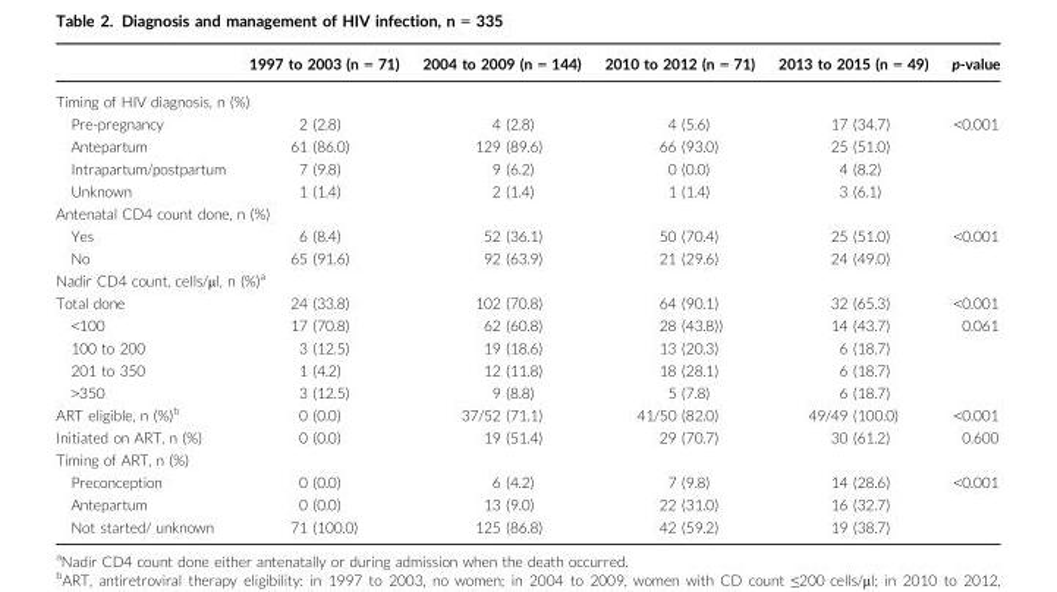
<table><thead><tr><td></td><td>1997 to 2003 (n = 71)</td><td>2004 to 2009 (n = 144)</td><td>2010 to 2012 (n = 71)</td><td>2013 to 2015 (n = 49)</td><td>p-value</td></tr></thead><tbody><tr><td colspan="6">Timing of HIV diagnosis, n (%)</td></tr><tr><td>Pre-pregnancy</td><td>2 (2.8)</td><td>4 (2.8)</td><td>4 (5.6)</td><td>17 (34.7)</td><td rowspan="4">&lt;0.001</td></tr><tr><td>Antepartum</td><td>61 (86.0)</td><td>129 (89.6)</td><td>66 (93.0)</td><td>25 (51.0)</td></tr><tr><td>Intrapartum/postpartum</td><td>7 (9.8)</td><td>9 (6.2)</td><td>0 (0.0)</td><td>4 (8.2)</td></tr><tr><td>Unknown</td><td>1 (1.4)</td><td>2 (1.4)</td><td>1 (1.4)</td><td>3 (6.1)</td></tr><tr><td colspan="6">Antenatal CD4 count done, n (%)</td></tr><tr><td>Yes</td><td>6 (8.4)</td><td>52 (36.1)</td><td>50 (70.4)</td><td>25 (51.0)</td><td rowspan="2">&lt;0.001</td></tr><tr><td>No</td><td>65 (91.6)</td><td>92 (63.9)</td><td>21 (29.6)</td><td>24 (49.0)</td></tr><tr><td colspan="6">Nadir CD4 count, cells/μl, n (%)<sup>a</sup></td></tr><tr><td>Total done</td><td>24 (33.8)</td><td>102 (70.8)</td><td>64 (90.1)</td><td>32 (65.3)</td><td>&lt;0.001</td></tr><tr><td>&lt;100</td><td>17 (70.8)</td><td>62 (60.8)</td><td>28 (43.8))</td><td>14 (43.7)</td><td rowspan="4">0.061</td></tr><tr><td>100 to 200</td><td>3 (12.5)</td><td>19 (18.6)</td><td>13 (20.3)</td><td>6 (18.7)</td></tr><tr><td>201 to 350</td><td>1 (4.2)</td><td>12 (11.8)</td><td>18 (28.1)</td><td>6 (18.7)</td></tr><tr><td>&gt;350</td><td>3 (12.5)</td><td>9 (8.8)</td><td>5 (7.8)</td><td>6 (18.7)</td></tr><tr><td>ART eligible, n (%)<sup>b</sup></td><td>0 (0.0)</td><td>37/52 (71.1)</td><td>41/50 (82.0)</td><td>49/49 (100.0)</td><td>&lt;0.001</td></tr><tr><td>Initiated on ART, n (%)</td><td>0 (0.0)</td><td>19 (51.4)</td><td>29 (70.7)</td><td>30 (61.2)</td><td>0.600</td></tr><tr><td colspan="6">Timing of ART, n (%)</td></tr><tr><td>Preconception</td><td>0 (0.0)</td><td>6 (4.2)</td><td>7 (9.8)</td><td>14 (28.6)</td><td rowspan="3">&lt;0.001</td></tr><tr><td>Antepartum</td><td>0 (0.0)</td><td>13 (9.0)</td><td>22 (31.0)</td><td>16 (32.7)</td></tr><tr><td>Not started/ unknown</td><td>71 (100.0)</td><td>125 (86.8)</td><td>42 (59.2)</td><td>19 (38.7)</td></tr></tbody></table>